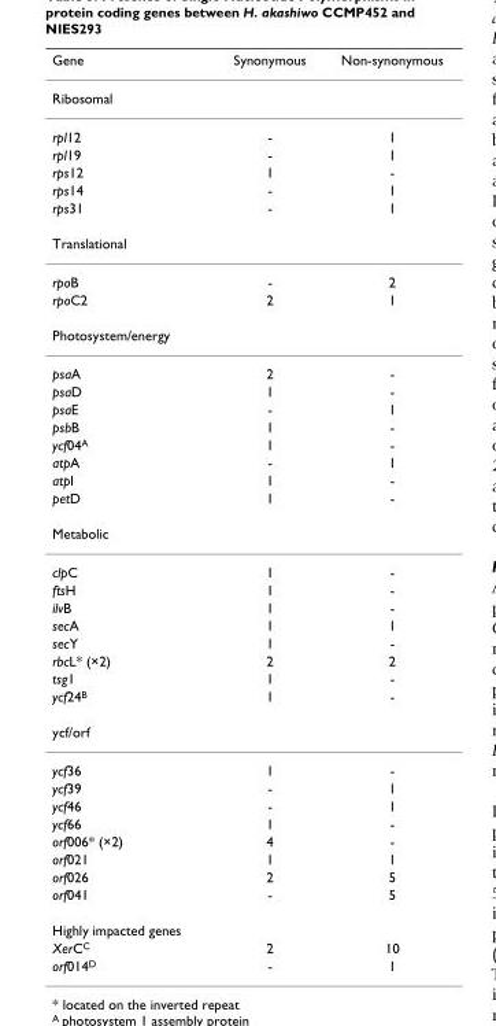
<table><thead><tr><td>Gene</td><td>Synonymous</td><td>Non-synonymous</td></tr></thead><tbody><tr><td colspan="3">Ribosomal</td></tr><tr><td>rpl12</td><td>-</td><td>1</td></tr><tr><td>rpl19</td><td>-</td><td>1</td></tr><tr><td>rps12</td><td>1</td><td>-</td></tr><tr><td>rps14</td><td>-</td><td>1</td></tr><tr><td>rps31</td><td>-</td><td>1</td></tr><tr><td colspan="3">Translational</td></tr><tr><td>rpoB</td><td>-</td><td>2</td></tr><tr><td>rpoC2</td><td>2</td><td>1</td></tr><tr><td colspan="3">Photosystem/energy</td></tr><tr><td>psaA</td><td>2</td><td>-</td></tr><tr><td>psaD</td><td>1</td><td>-</td></tr><tr><td>psaE</td><td>-</td><td>1</td></tr><tr><td>psbB</td><td>1</td><td>-</td></tr><tr><td>ycf04<sup>A</sup></td><td>1</td><td>-</td></tr><tr><td>atpA</td><td>-</td><td>1</td></tr><tr><td>atpI</td><td>1</td><td>-</td></tr><tr><td>petD</td><td>1</td><td>-</td></tr><tr><td colspan="3">Metabolic</td></tr><tr><td>clpC</td><td>1</td><td>-</td></tr><tr><td>ftsH</td><td>1</td><td>-</td></tr><tr><td>ilvB</td><td>1</td><td>-</td></tr><tr><td>secA</td><td>1</td><td>1</td></tr><tr><td>secY</td><td>1</td><td>-</td></tr><tr><td>rbcL* (×2)</td><td>2</td><td>2</td></tr><tr><td>tsg1</td><td>1</td><td>-</td></tr><tr><td>ycf24<sup>B</sup></td><td>1</td><td>-</td></tr><tr><td colspan="3">ycf/orf</td></tr><tr><td>ycf36</td><td>1</td><td>-</td></tr><tr><td>ycf39</td><td>-</td><td>1</td></tr><tr><td>ycf46</td><td>-</td><td>1</td></tr><tr><td>ycf66</td><td>1</td><td>-</td></tr><tr><td>orf006* (×2)</td><td>4</td><td>-</td></tr><tr><td>orf021</td><td>1</td><td>1</td></tr><tr><td>orf026</td><td>2</td><td>5</td></tr><tr><td>orf041</td><td>-</td><td>5</td></tr><tr><td colspan="3">Highly impacted genes</td></tr><tr><td>XerC<sup>C</sup></td><td>2</td><td>10</td></tr><tr><td>orf014<sup>D</sup></td><td>-</td><td>1</td></tr></tbody></table>